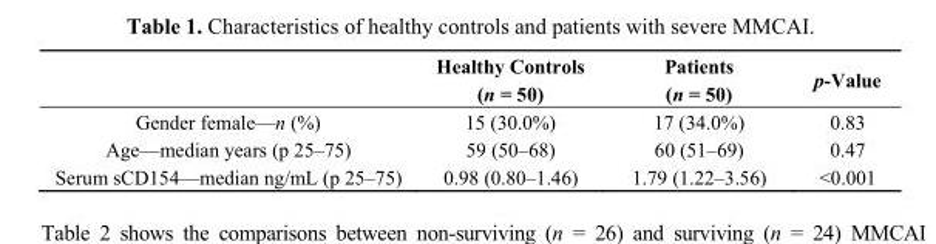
<table><thead><tr><td></td><td>Healthy Controls (n = 50)</td><td>Patients (n = 50)</td><td>p-Value</td></tr></thead><tbody><tr><td>Gender female—n (%)</td><td>15 (30.0%)</td><td>17 (34.0%)</td><td>0.83</td></tr><tr><td>Age—median years (p 25–75)</td><td>59 (50–68)</td><td>60 (51–69)</td><td>0.47</td></tr><tr><td>Serum sCD154—median ng/mL (p 25–75)</td><td>0.98 (0.80–1.46)</td><td>1.79 (1.22–3.56)</td><td>&lt;0.001</td></tr></tbody></table>